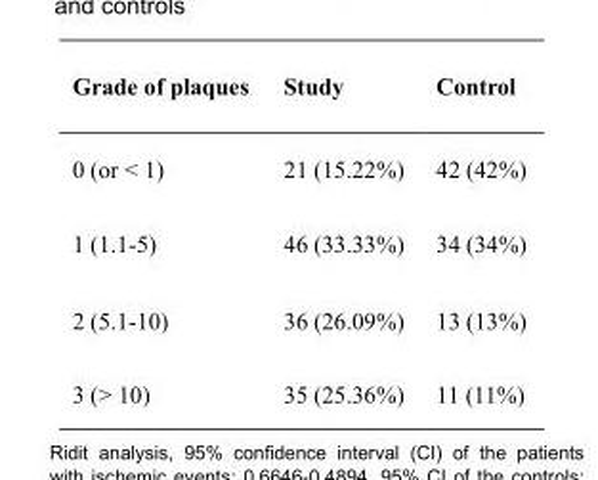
<table><thead><tr><td>Grade of plaques</td><td>Study</td><td>Control</td></tr></thead><tbody><tr><td>0 (or &lt; 1)</td><td>21 (15.22%)</td><td>42 (42%)</td></tr><tr><td>1 (1.1-5)</td><td>46 (33.33%)</td><td>34 (34%)</td></tr><tr><td>2 (5.1-10)</td><td>36 (26.09%)</td><td>13 (13%)</td></tr><tr><td>3 (&gt; 10)</td><td>35 (25.36%)</td><td>11 (11%)</td></tr></tbody></table>